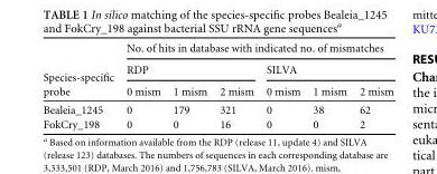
<table><thead><tr><td rowspan="3">Species-specific probe</td><td colspan="6">No. of hits in database with indicated no. of mismatches</td></tr><tr><td colspan="3">RDP</td><td colspan="3">SILVA</td></tr><tr><td>0 mism</td><td>1 mism</td><td>2 mism</td><td>0 mism</td><td>1 mism</td><td>2 mism</td></tr></thead><tbody><tr><td>Bealeia_1245</td><td>0</td><td>179</td><td>321</td><td>0</td><td>38</td><td>62</td></tr><tr><td>FokCry_198</td><td>0</td><td>0</td><td>16</td><td>0</td><td>0</td><td>2</td></tr></tbody></table>